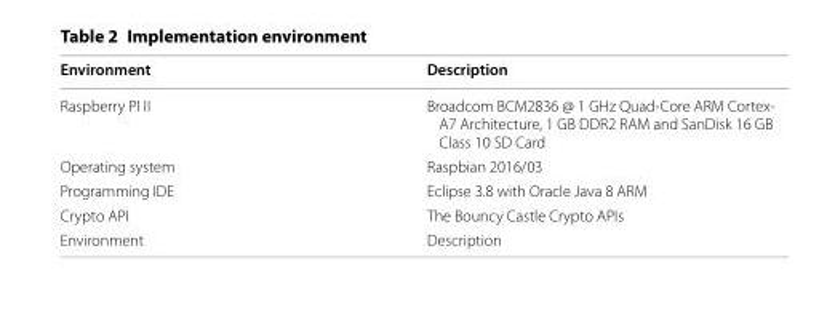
<table><thead><tr><td>Environment</td><td>Description</td></tr></thead><tbody><tr><td>Raspberry PI II</td><td>Broadcom BCM2836 @ 1 GHz Quad‑Core ARM Cortex‑ A7 Architecture, 1 GB DDR2 RAM and SanDisk 16 GB Class 10 SD Card</td></tr><tr><td>Operating system</td><td>Raspbian 2016/03</td></tr><tr><td>Programming IDE</td><td>Eclipse 3.8 with Oracle Java 8 ARM</td></tr><tr><td>Crypto API</td><td>The Bouncy Castle Crypto APIs</td></tr><tr><td>Environment</td><td>Description</td></tr></tbody></table>